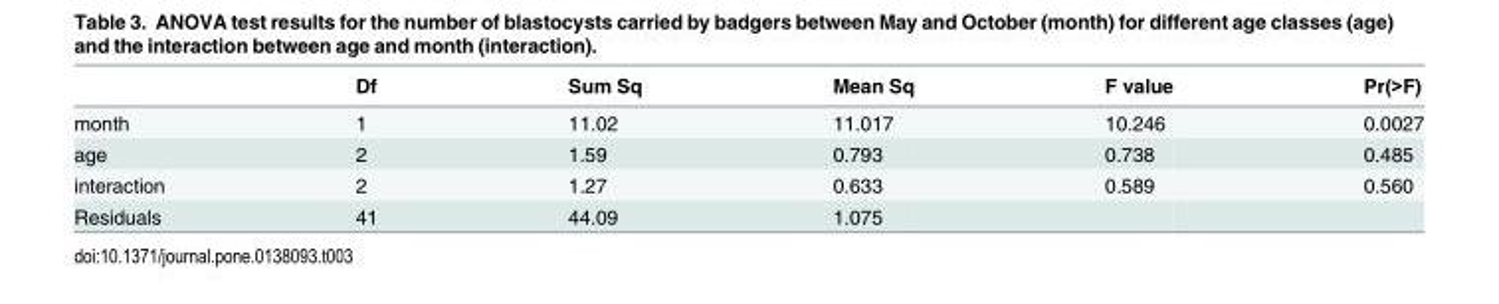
<table><thead><tr><td></td><td>Df</td><td>Sum Sq</td><td>Mean Sq</td><td>F value</td><td>Pr(&gt;F)</td></tr></thead><tbody><tr><td>month</td><td>1</td><td>11.02</td><td>11.017</td><td>10.246</td><td>0.0027</td></tr><tr><td>age</td><td>2</td><td>1.59</td><td>0.793</td><td>0.738</td><td>0.485</td></tr><tr><td>interaction</td><td>2</td><td>1.27</td><td>0.633</td><td>0.589</td><td>0.560</td></tr><tr><td>Residuals</td><td>41</td><td>44.09</td><td>1.075</td><td></td><td></td></tr></tbody></table>